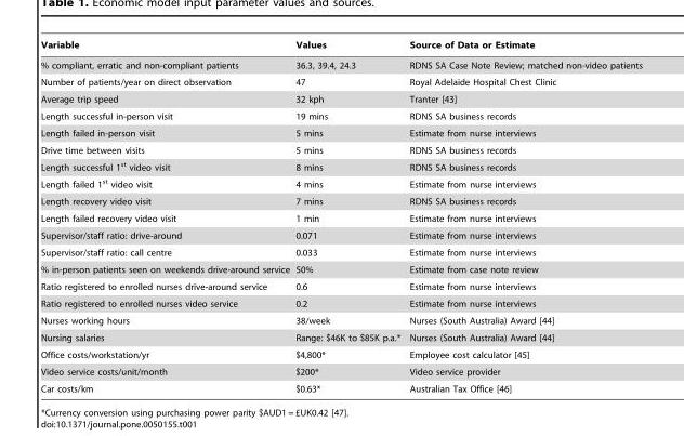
<table><thead><tr><td>Variable</td><td>Values</td><td>Source of Data or Estimate</td></tr></thead><tbody><tr><td>% compliant, erratic and non-compliant patients</td><td>36.3, 39.4, 24.3</td><td>RDNS SA Case Note Review; matched non-video patients</td></tr><tr><td>Number of patients/year on direct observation</td><td>47</td><td>Royal Adelaide Hospital Chest Clinic</td></tr><tr><td>Average trip speed</td><td>32 kph</td><td>Tranter [43]</td></tr><tr><td>Length successful in-person visit</td><td>19 mins</td><td>RDNS SA business records</td></tr><tr><td>Length failed in-person visit</td><td>5 mins</td><td>Estimate from nurse interviews</td></tr><tr><td>Drive time between visits</td><td>5 mins</td><td>RDNS SA business records</td></tr><tr><td>Length successful 1<sup>st</sup> video visit</td><td>8 mins</td><td>RDNS SA business records</td></tr><tr><td>Length failed 1<sup>st</sup> video visit</td><td>4 mins</td><td>Estimate from nurse interviews</td></tr><tr><td>Length recovery video visit</td><td>7 mins</td><td>RDNS SA business records</td></tr><tr><td>Length failed recovery video visit</td><td>1 min</td><td>Estimate from nurse interviews</td></tr><tr><td>Supervisor/staff ratio: drive-around</td><td>0.071</td><td>Estimate from nurse interviews</td></tr><tr><td>Supervisor/staff ratio: call centre</td><td>0.033</td><td>Estimate from nurse interviews</td></tr><tr><td>% in-person patients seen on weekends drive-around service</td><td>50%</td><td>Estimate from case note review</td></tr><tr><td>Ratio registered to enrolled nurses drive-around service</td><td>0.6</td><td>Estimate from nurse interviews</td></tr><tr><td>Ratio registered to enrolled nurses video service</td><td>0.2</td><td>Estimate from nurse interviews</td></tr><tr><td>Nurses working hours</td><td>38/week</td><td>Nurses (South Australia) Award [44]</td></tr><tr><td>Nursing salaries</td><td>Range: $46K to $85K p.a.*</td><td>Nurses (South Australia) Award [44]</td></tr><tr><td>Office costs/workstation/yr</td><td>$4,800*</td><td>Employee cost calculator [45]</td></tr><tr><td>Video service costs/unit/month</td><td>$200*</td><td>Video service provider</td></tr><tr><td>Car costs/km</td><td>$0.63*</td><td>Australian Tax Office [46]</td></tr></tbody></table>